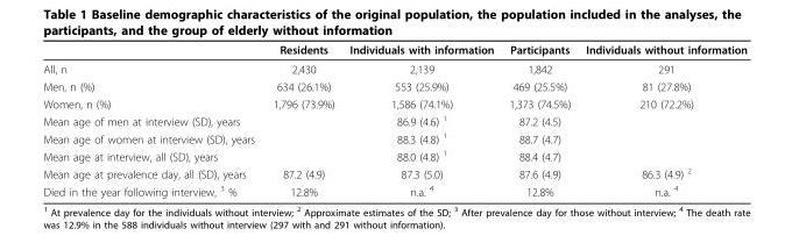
<table><thead><tr><td></td><td>Residents</td><td>Individuals with information</td><td>Participants</td><td>Individuals without information</td></tr></thead><tbody><tr><td>All, n</td><td>2,430</td><td>2,139</td><td>1,842</td><td>291</td></tr><tr><td>Men, n (%)</td><td>634 (26.1%)</td><td>553 (25.9%)</td><td>469 (25.5%)</td><td>81 (27.8%)</td></tr><tr><td>Women, n (%)</td><td>1,796 (73.9%)</td><td>1,586 (74.1%)</td><td>1,373 (74.5%)</td><td>210 (72.2%)</td></tr><tr><td>Mean age of men at interview (SD), years</td><td></td><td>86.9 (4.6) <sup>1</sup></td><td>87.2 (4.5)</td><td></td></tr><tr><td>Mean age of women at interview (SD), years</td><td></td><td>88.3 (4.8) <sup>1</sup></td><td>88.7 (4.7)</td><td></td></tr><tr><td>Mean age at interview, all (SD), years</td><td></td><td>88.0 (4.8) <sup>1</sup></td><td>88.4 (4.7)</td><td></td></tr><tr><td>Mean age at prevalence day, all (SD), years</td><td>87.2 (4.9)</td><td>87.3 (5.0)</td><td>87.6 (4.9)</td><td>86.3 (4.9) <sup>2</sup></td></tr><tr><td>Died in the year following interview, <sup>3</sup> %</td><td>12.8%</td><td>n.a. <sup>4</sup></td><td>12.8%</td><td>n.a. <sup>4</sup></td></tr></tbody></table>